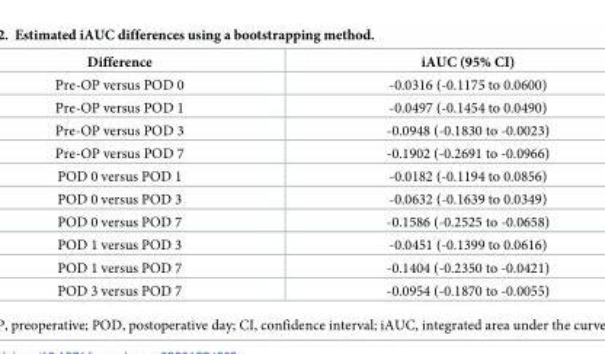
<table><thead><tr><td>Difference</td><td>iAUC (95% CI)</td></tr></thead><tbody><tr><td>Pre-OP versus POD 0</td><td>-0.0316 (-0.1175 to 0.0600)</td></tr><tr><td>Pre-OP versus POD 1</td><td>-0.0497 (-0.1454 to 0.0490)</td></tr><tr><td>Pre-OP versus POD 3</td><td>-0.0948 (-0.1830 to -0.0023)</td></tr><tr><td>Pre-OP versus POD 7</td><td>-0.1902 (-0.2691 to -0.0966)</td></tr><tr><td>POD 0 versus POD 1</td><td>-0.0182 (-0.1194 to 0.0856)</td></tr><tr><td>POD 0 versus POD 3</td><td>-0.0632 (-0.1639 to 0.0349)</td></tr><tr><td>POD 0 versus POD 7</td><td>-0.1586 (-0.2525 to -0.0658)</td></tr><tr><td>POD 1 versus POD 3</td><td>-0.0451 (-0.1399 to 0.0616)</td></tr><tr><td>POD 1 versus POD 7</td><td>-0.1404 (-0.2350 to -0.0421)</td></tr><tr><td>POD 3 versus POD 7</td><td>-0.0954 (-0.1870 to -0.0055)</td></tr></tbody></table>